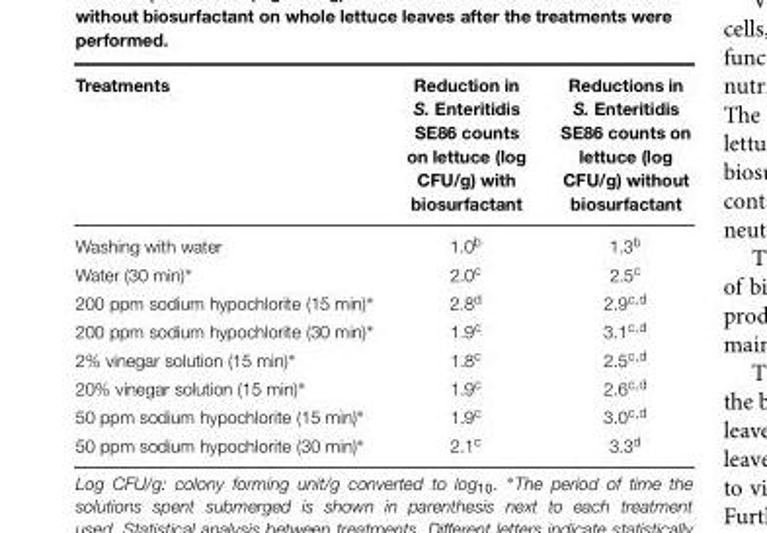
<table><thead><tr><td>Treatments</td><td>Reduction in S. Enteritidis SE86 counts on lettuce (log CFU/g) with biosurfactant</td><td>Reductions in S. Enteritidis SE86 counts on lettuce (log CFU/g) without biosurfactant</td></tr></thead><tbody><tr><td>Washing with water</td><td>1.0<sup>b</sup></td><td>1.3<sup>b</sup></td></tr><tr><td>Water (30 min)∗</td><td>2.0<sup>c</sup></td><td>2.5<sup>c</sup></td></tr><tr><td>200 ppm sodium hypochlorite (15 min)∗</td><td>2.8<sup>d</sup></td><td>2.9<sup>c,d</sup></td></tr><tr><td>200 ppm sodium hypochlorite (30 min)∗</td><td>1.9<sup>c</sup></td><td>3.1<sup>c,d</sup></td></tr><tr><td>2% vinegar solution (15 min)∗</td><td>1.8<sup>c</sup></td><td>2.5<sup>c,d</sup></td></tr><tr><td>20% vinegar solution (15 min)∗</td><td>1.9<sup>c</sup></td><td>2.6<sup>c,d</sup></td></tr><tr><td>50 ppm sodium hypochlorite (15 min)∗</td><td>1.9<sup>c</sup></td><td>3.0<sup>c,d</sup></td></tr><tr><td>50 ppm sodium hypochlorite (30 min)∗</td><td>2.1<sup>c</sup></td><td>3.3<sup>d</sup></td></tr></tbody></table>